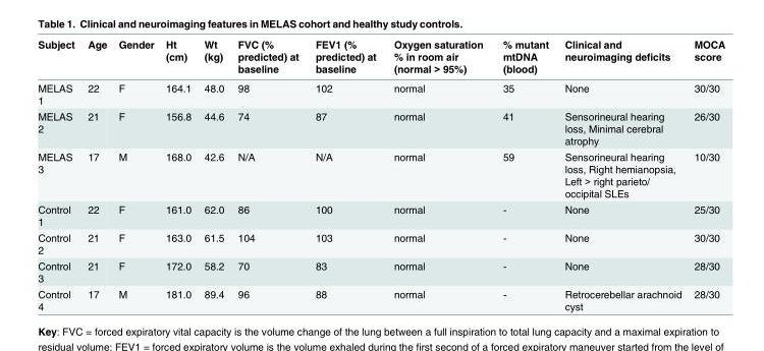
<table><thead><tr><td>Subject</td><td>Age</td><td>Gender</td><td>Ht (cm)</td><td>Wt (kg)</td><td>FVC (% predicted) at baseline</td><td>FEV1 (% predicted) at baseline</td><td>Oxygen saturation % in room air (normal &gt; 95%)</td><td>% mutant mtDNA (blood)</td><td>Clinical and neuroimaging deficits</td><td>MOCA score</td></tr></thead><tbody><tr><td>MELAS 1</td><td>22</td><td>F</td><td>164.1</td><td>48.0</td><td>98</td><td>102</td><td>normal</td><td>35</td><td>None</td><td>30/30</td></tr><tr><td>MELAS 2</td><td>21</td><td>F</td><td>156.8</td><td>44.6</td><td>74</td><td>87</td><td>normal</td><td>41</td><td>Sensorineural hearing loss, Minimal cerebral atrophy</td><td>26/30</td></tr><tr><td>MELAS 3</td><td>17</td><td>M</td><td>168.0</td><td>42.6</td><td>N/A</td><td>N/A</td><td>normal</td><td>59</td><td>Sensorineural hearing loss, Right hemianopsia, Left &gt; right parieto/ occipital SLEs</td><td>10/30</td></tr><tr><td>Control 1</td><td>22</td><td>F</td><td>161.0</td><td>62.0</td><td>86</td><td>100</td><td>normal</td><td>-</td><td>None</td><td>25/30</td></tr><tr><td>Control 2</td><td>21</td><td>F</td><td>163.0</td><td>61.5</td><td>104</td><td>103</td><td>normal</td><td>-</td><td>None</td><td>30/30</td></tr><tr><td>Control 3</td><td>21</td><td>F</td><td>172.0</td><td>58.2</td><td>70</td><td>83</td><td>normal</td><td>-</td><td>None</td><td>28/30</td></tr><tr><td>Control 4</td><td>17</td><td>M</td><td>181.0</td><td>89.4</td><td>96</td><td>88</td><td>normal</td><td>-</td><td>Retrocerebellar arachnoid cyst</td><td>28/30</td></tr></tbody></table>